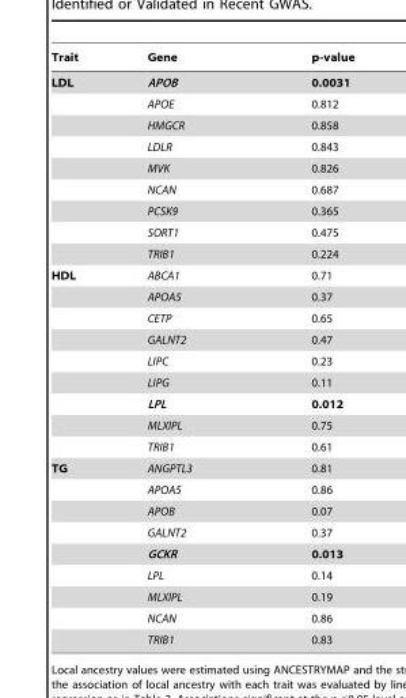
<table><thead><tr><td>Trait</td><td>Gene</td><td>p-value</td></tr></thead><tbody><tr><td rowspan="9">LDL</td><td>APOB</td><td>0.0031</td></tr><tr><td>APOE</td><td>0.812</td></tr><tr><td>HMGCR</td><td>0.858</td></tr><tr><td>LDLR</td><td>0.843</td></tr><tr><td>MVK</td><td>0.826</td></tr><tr><td>NCAN</td><td>0.687</td></tr><tr><td>PCSK9</td><td>0.365</td></tr><tr><td>SORT1</td><td>0.475</td></tr><tr><td>TRIB1</td><td>0.224</td></tr><tr><td rowspan="9">HDL</td><td>ABCA1</td><td>0.71</td></tr><tr><td>APOA5</td><td>0.37</td></tr><tr><td>CETP</td><td>0.65</td></tr><tr><td>GALNT2</td><td>0.47</td></tr><tr><td>LIPC</td><td>0.23</td></tr><tr><td>LIPG</td><td>0.11</td></tr><tr><td>LPL</td><td>0.012</td></tr><tr><td>MLXIPL</td><td>0.75</td></tr><tr><td>TRIB1</td><td>0.61</td></tr><tr><td rowspan="9">TG</td><td>ANGPTL3</td><td>0.81</td></tr><tr><td>APOA5</td><td>0.86</td></tr><tr><td>APOB</td><td>0.07</td></tr><tr><td>GALNT2</td><td>0.37</td></tr><tr><td>GCKR</td><td>0.013</td></tr><tr><td>LPL</td><td>0.14</td></tr><tr><td>MLXIPL</td><td>0.19</td></tr><tr><td>NCAN</td><td>0.86</td></tr><tr><td>TRIB1</td><td>0.83</td></tr></tbody></table>